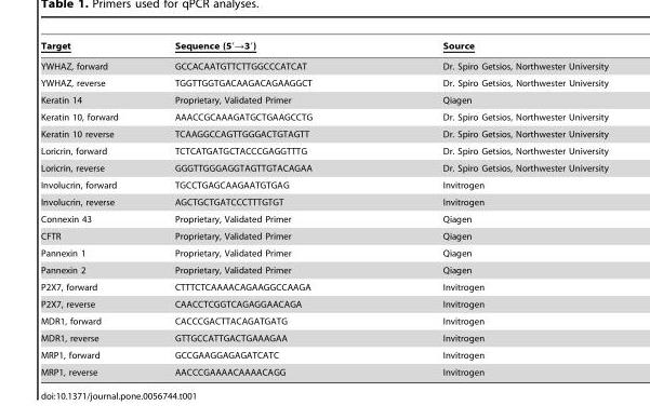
<table><thead><tr><td>Target</td><td>Sequence (5′→3′)</td><td>Source</td></tr></thead><tbody><tr><td>YWHAZ, forward</td><td>GCCACAATGTTCTTGGCCCATCAT</td><td>Dr. Spiro Getsios, Northwester University</td></tr><tr><td>YWHAZ, reverse</td><td>TGGTTGGTGACAAGACAGAAGGCT</td><td>Dr. Spiro Getsios, Northwester University</td></tr><tr><td>Keratin 14</td><td>Proprietary, Validated Primer</td><td>Qiagen</td></tr><tr><td>Keratin 10, forward</td><td>AAACCGCAAAGATGCTGAAGCCTG</td><td>Dr. Spiro Getsios, Northwester University</td></tr><tr><td>Keratin 10 reverse</td><td>TCAAGGCCAGTTGGGACTGTAGTT</td><td>Dr. Spiro Getsios, Northwester University</td></tr><tr><td>Loricrin, forward</td><td>TCTCATGATGCTACCCGAGGTTTG</td><td>Dr. Spiro Getsios, Northwester University</td></tr><tr><td>Loricrin, reverse</td><td>GGGTTGGGAGGTAGTTGTACAGAA</td><td>Dr. Spiro Getsios, Northwester University</td></tr><tr><td>Involucrin, forward</td><td>TGCCTGAGCAAGAATGTGAG</td><td>Invitrogen</td></tr><tr><td>Involucrin, reverse</td><td>AGCTGCTGATCCCTTTGTGT</td><td>Invitrogen</td></tr><tr><td>Connexin 43</td><td>Proprietary, Validated Primer</td><td>Qiagen</td></tr><tr><td>CFTR</td><td>Proprietary, Validated Primer</td><td>Qiagen</td></tr><tr><td>Pannexin 1</td><td>Proprietary, Validated Primer</td><td>Qiagen</td></tr><tr><td>Pannexin 2</td><td>Proprietary, Validated Primer</td><td>Qiagen</td></tr><tr><td>P2X7, forward</td><td>CTTTCTCAAAACAGAAGGCCAAGA</td><td>Invitrogen</td></tr><tr><td>P2X7, reverse</td><td>CAACCTCGGTCAGAGGAACAGA</td><td>Invitrogen</td></tr><tr><td>MDR1, forward</td><td>CACCCGACTTACAGATGATG</td><td>Invitrogen</td></tr><tr><td>MDR1, reverse</td><td>GTTGCCATTGACTGAAAGAA</td><td>Invitrogen</td></tr><tr><td>MRP1, forward</td><td>GCCGAAGGAGAGATCATC</td><td>Invitrogen</td></tr><tr><td>MRP1, reverse</td><td>AACCCGAAAACAAAACAGG</td><td>Invitrogen</td></tr></tbody></table>